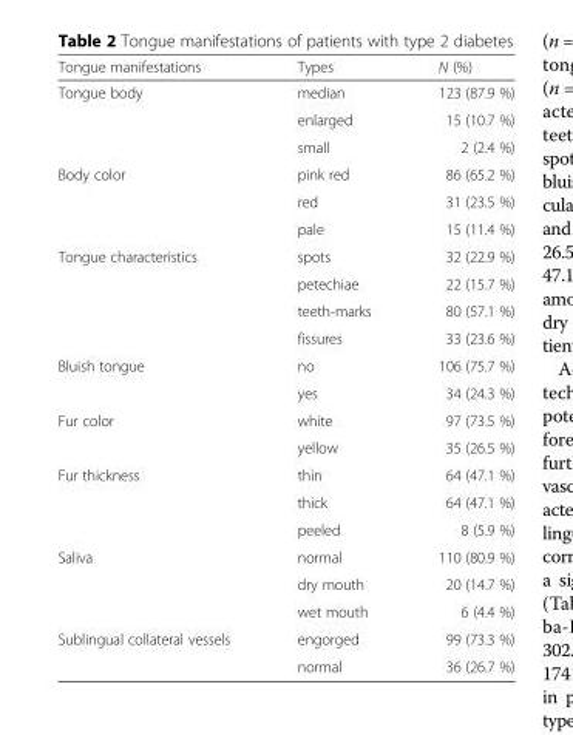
<table><thead><tr><td>Tongue manifestations</td><td>Types</td><td>N (%)</td></tr></thead><tbody><tr><td rowspan="3">Tongue body</td><td>median</td><td>123 (87.9 %)</td></tr><tr><td>enlarged</td><td>15 (10.7 %)</td></tr><tr><td>small</td><td>2 (2.4 %)</td></tr><tr><td rowspan="3">Body color</td><td>pink red</td><td>86 (65.2 %)</td></tr><tr><td>red</td><td>31 (23.5 %)</td></tr><tr><td>pale</td><td>15 (11.4 %)</td></tr><tr><td rowspan="4">Tongue characteristics</td><td>spots</td><td>32 (22.9 %)</td></tr><tr><td>petechiae</td><td>22 (15.7 %)</td></tr><tr><td>teeth-marks</td><td>80 (57.1 %)</td></tr><tr><td>fissures</td><td>33 (23.6 %)</td></tr><tr><td rowspan="2">Bluish tongue</td><td>no</td><td>106 (75.7 %)</td></tr><tr><td>yes</td><td>34 (24.3 %)</td></tr><tr><td rowspan="2">Fur color</td><td>white</td><td>97 (73.5 %)</td></tr><tr><td>yellow</td><td>35 (26.5 %)</td></tr><tr><td rowspan="3">Fur thickness</td><td>thin</td><td>64 (47.1 %)</td></tr><tr><td>thick</td><td>64 (47.1 %)</td></tr><tr><td>peeled</td><td>8 (5.9 %)</td></tr><tr><td rowspan="3">Saliva</td><td>normal</td><td>110 (80.9 %)</td></tr><tr><td>dry mouth</td><td>20 (14.7 %)</td></tr><tr><td>wet mouth</td><td>6 (4.4 %)</td></tr><tr><td rowspan="2">Sublingual collateral vessels</td><td>engorged</td><td>99 (73.3 %)</td></tr><tr><td>normal</td><td>36 (26.7 %)</td></tr></tbody></table>